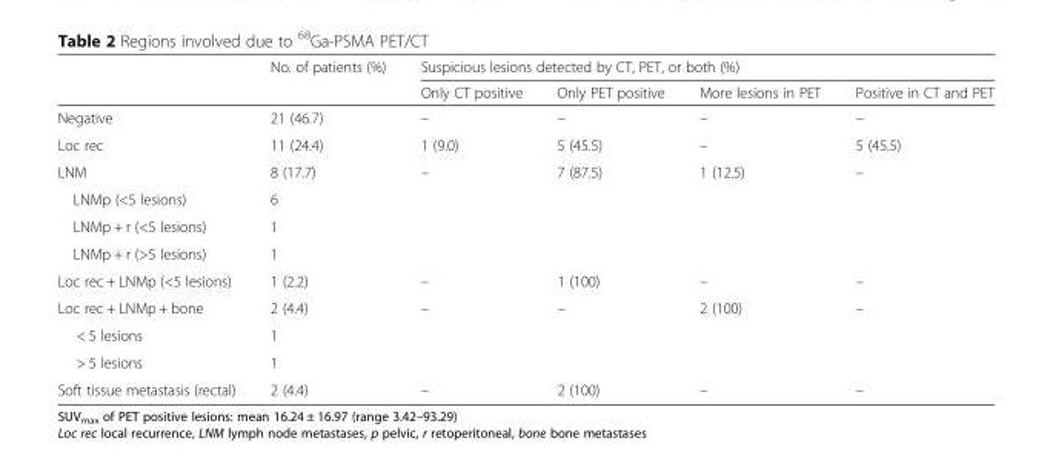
<table><thead><tr><td rowspan="2"></td><td rowspan="2">No. of patients (%)</td><td colspan="4">Suspicious lesions detected by CT, PET, or both (%)</td></tr><tr><td>Only CT positive</td><td>Only PET positive</td><td>More lesions in PET</td><td>Positive in CT and PET</td></tr></thead><tbody><tr><td>Negative</td><td>21 (46.7)</td><td>–</td><td>–</td><td>–</td><td>–</td></tr><tr><td>Loc rec</td><td>11 (24.4)</td><td>1 (9.0)</td><td>5 (45.5)</td><td>–</td><td>5 (45.5)</td></tr><tr><td>LNM</td><td>8 (17.7)</td><td>–</td><td>7 (87.5)</td><td>1 (12.5)</td><td>–</td></tr><tr><td>LNMp (&lt;5 lesions)</td><td>6</td><td></td><td></td><td></td><td></td></tr><tr><td>LNMp + r (&lt;5 lesions)</td><td>1</td><td></td><td></td><td></td><td></td></tr><tr><td>LNMp + r (&gt;5 lesions)</td><td>1</td><td></td><td></td><td></td><td></td></tr><tr><td>Loc rec + LNMp (&lt;5 lesions)</td><td>1 (2.2)</td><td>–</td><td>1 (100)</td><td>–</td><td>–</td></tr><tr><td>Loc rec + LNMp + bone</td><td>2 (4.4)</td><td>–</td><td>–</td><td>2 (100)</td><td>–</td></tr><tr><td>&lt; 5 lesions</td><td>1</td><td></td><td></td><td></td><td></td></tr><tr><td>&gt; 5 lesions</td><td>1</td><td></td><td></td><td></td><td></td></tr><tr><td>Soft tissue metastasis (rectal)</td><td>2 (4.4)</td><td>–</td><td>2 (100)</td><td>–</td><td>–</td></tr></tbody></table>